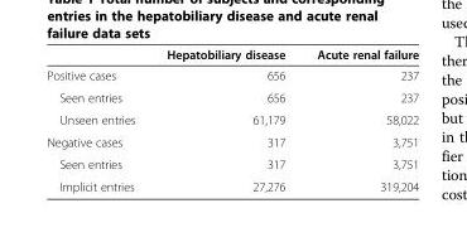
<table><thead><tr><td></td><td>Hepatobiliary disease</td><td>Acute renal failure</td></tr></thead><tbody><tr><td>Positive cases</td><td>656</td><td>237</td></tr><tr><td>Seen entries</td><td>656</td><td>237</td></tr><tr><td>Unseen entries</td><td>61,179</td><td>58,022</td></tr><tr><td>Negative cases</td><td>317</td><td>3,751</td></tr><tr><td>Seen entries</td><td>317</td><td>3,751</td></tr><tr><td>Implicit entries</td><td>27,276</td><td>319,204</td></tr></tbody></table>